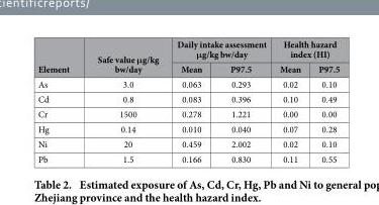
<table><thead><tr><td rowspan="2">Element</td><td rowspan="2">Safe value μg/kg bw/day</td><td colspan="2">Daily intake assessment μg/kg bw/day</td><td colspan="2">Health hazard index (HI)</td></tr><tr><td>Mean</td><td>P97.5</td><td>Mean</td><td>P97.5</td></tr></thead><tbody><tr><td>As</td><td>3.0</td><td>0.063</td><td>0.293</td><td>0.02</td><td>0.10</td></tr><tr><td>Cd</td><td>0.8</td><td>0.083</td><td>0.396</td><td>0.10</td><td>0.49</td></tr><tr><td>Cr</td><td>1500</td><td>0.278</td><td>1.221</td><td>0.00</td><td>0.00</td></tr><tr><td>Hg</td><td>0.14</td><td>0.010</td><td>0.040</td><td>0.07</td><td>0.28</td></tr><tr><td>Ni</td><td>20</td><td>0.459</td><td>2.002</td><td>0.02</td><td>0.10</td></tr><tr><td>Pb</td><td>1.5</td><td>0.166</td><td>0.830</td><td>0.11</td><td>0.55</td></tr></tbody></table>